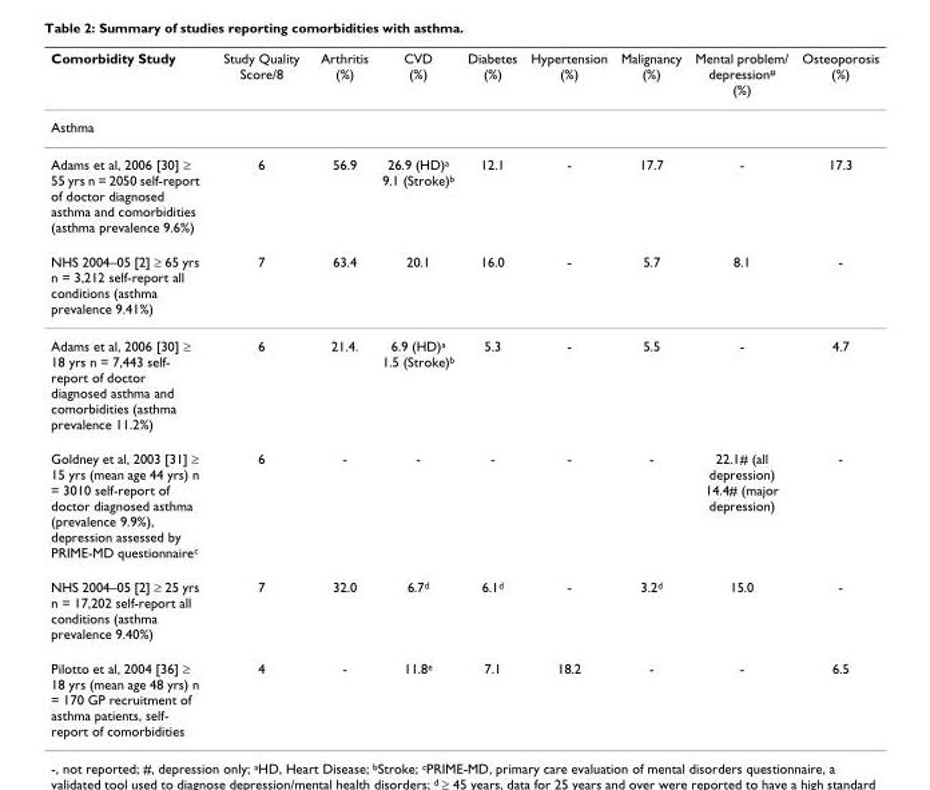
<table><thead><tr><td>Comorbidity Study</td><td>Study Quality Score/8</td><td>Arthritis (%)</td><td>CVD (%)</td><td>Diabetes (%)</td><td>Hypertension (%)</td><td>Malignancy (%)</td><td>Mental problem/ depression<sup>#</sup> (%)</td><td>Osteoporosis (%)</td></tr></thead><tbody><tr><td colspan="9">Asthma</td></tr><tr><td>Adams et al, 2006 [30] ≥ 55 yrs n = 2050 self-report of doctor diagnosed asthma and comorbidities (asthma prevalence 9.6%)</td><td>6</td><td>56.9</td><td>26.9 (HD)<sup>a</sup> 9.1 (Stroke)<sup>b</sup></td><td>12.1</td><td>-</td><td>17.7</td><td>-</td><td>17.3</td></tr><tr><td>NHS 2004–05 [2] ≥ 65 yrs n = 3,212 self-report all conditions (asthma prevalence 9.41%)</td><td>7</td><td>63.4</td><td>20.1</td><td>16.0</td><td>-</td><td>5.7</td><td>8.1</td><td>-</td></tr><tr><td>Adams et al, 2006 [30] ≥ 18 yrs n = 7,443 self- report of doctor diagnosed asthma and comorbidities (asthma prevalence 11.2%)</td><td>6</td><td>21.4.</td><td>6.9 (HD)<sup>a</sup> 1.5 (Stroke)<sup>b</sup></td><td>5.3</td><td>-</td><td>5.5</td><td>-</td><td>4.7</td></tr><tr><td>Goldney et al, 2003 [31] ≥ 15 yrs (mean age 44 yrs) n = 3010 self-report of doctor diagnosed asthma (prevalence 9.9%), depression assessed by PRIME-MD questionnaire<sup>c</sup></td><td>6</td><td>-</td><td>-</td><td>-</td><td>-</td><td>-</td><td>22.1# (all depression) 14.4# (major depression)</td><td>-</td></tr><tr><td>NHS 2004–05 [2] ≥ 25 yrs n = 17,202 self-report all conditions (asthma prevalence 9.40%)</td><td>7</td><td>32.0</td><td>6.7<sup>d</sup></td><td>6.1<sup>d</sup></td><td>-</td><td>3.2<sup>d</sup></td><td>15.0</td><td>-</td></tr><tr><td>Pilotto et al, 2004 [36] ≥ 18 yrs (mean age 48 yrs) n = 170 GP recruitment of asthma patients, self- report of comorbidities</td><td>4</td><td>-</td><td>11.8<sup>e</sup></td><td>7.1</td><td>18.2</td><td>-</td><td>-</td><td>6.5</td></tr></tbody></table>